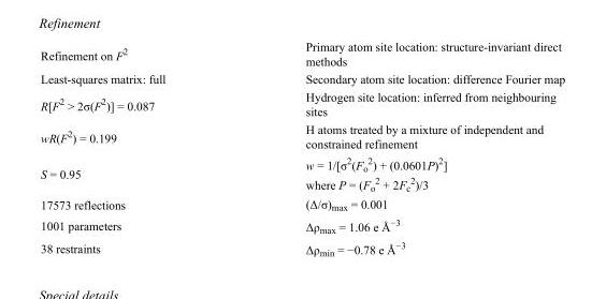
<table><tbody><tr><td>Refinement on F<sup>2</sup></td><td>Primary atom site location: structure-invariant direct methods</td></tr><tr><td>Least-squares matrix: full</td><td>Secondary atom site location: difference Fourier map</td></tr><tr><td>R[F<sup>2</sup> &gt; 2σ(F<sup>2</sup>)] = 0.087</td><td>Hydrogen site location: inferred from neighbouring sites</td></tr><tr><td>wR(F<sup>2</sup>) = 0.199</td><td>H atoms treated by a mixture of independent and constrained refinement</td></tr><tr><td>S = 0.95</td><td>w = 1/[σ<sup>2</sup>(F<sub>o</sub> <sup>2</sup>) + (0.0601P)<sup>2</sup>] where P = (F<sub>o</sub> <sup>2</sup> + 2F<sub>c</sub> <sup>2</sup>)/3</td></tr><tr><td>17573 reflections</td><td>(Δ/σ)<sub>max</sub> = 0.001</td></tr><tr><td>1001 parameters</td><td>Δρ<sub>max</sub> = 1.06 e Å<sup>−3</sup></td></tr><tr><td>38 restraints</td><td>Δρ<sub>min</sub> = −0.78 e Å<sup>−3</sup></td></tr></tbody></table>